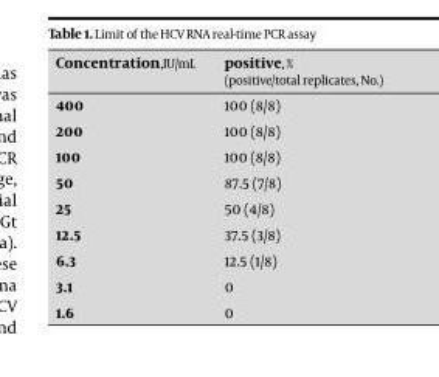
<table><thead><tr><td>Concentration,IU/mL</td><td>positive, % (positive/total replicates, No.)</td></tr></thead><tbody><tr><td>400</td><td>100 (8/8)</td></tr><tr><td>200</td><td>100 (8/8)</td></tr><tr><td>100</td><td>100 (8/8)</td></tr><tr><td>50</td><td>87.5 (7/8)</td></tr><tr><td>25</td><td>50 (4/8)</td></tr><tr><td>12.5</td><td>37.5 (3/8)</td></tr><tr><td>6.3</td><td>12.5 (1/8)</td></tr><tr><td>3.1</td><td>0</td></tr><tr><td>1.6</td><td>0</td></tr></tbody></table>